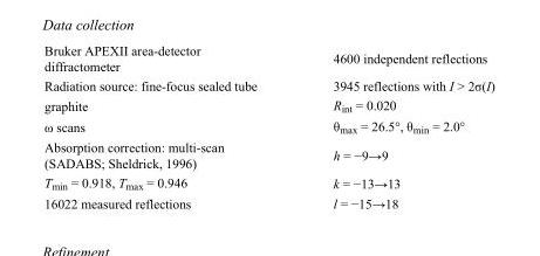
<table><tbody><tr><td>Bruker APEXII area-detector diffractometer</td><td>4600 independent reflections</td></tr><tr><td>Radiation source: fine-focus sealed tube</td><td>3945 reflections with I &gt; 2σ(I)</td></tr><tr><td>graphite</td><td>R<sub>int</sub> = 0.020</td></tr><tr><td>ω scans</td><td>θ<sub>max</sub> = 26.5°, θ<sub>min</sub> = 2.0°</td></tr><tr><td>Absorption correction: multi-scan (SADABS; Sheldrick, 1996)</td><td>h = −9→9</td></tr><tr><td>T<sub>min</sub> = 0.918, T<sub>max</sub> = 0.946</td><td>k = −13→13</td></tr><tr><td>16022 measured reflections</td><td>l = −15→18</td></tr></tbody></table>